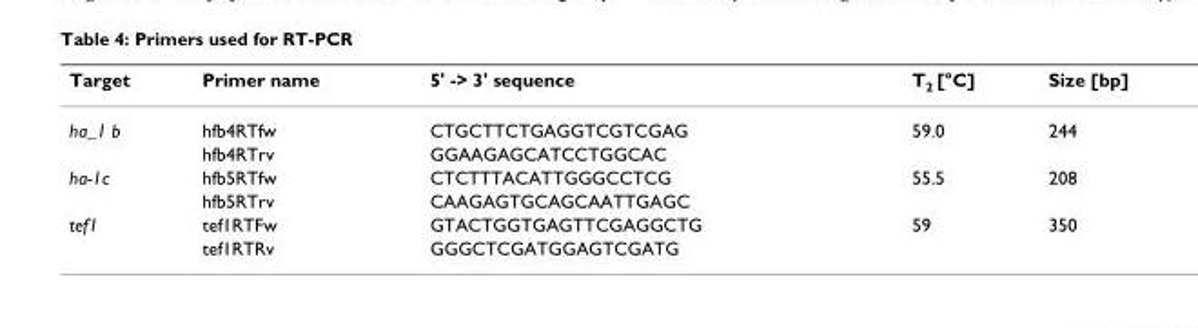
<table><thead><tr><td>Target</td><td>Primer name</td><td>5&#x27; -&gt; 3&#x27; sequence</td><td>T<sub>2</sub> [°C]</td><td>Size [bp]</td></tr></thead><tbody><tr><td rowspan="2">ha_1 b</td><td>hfb4RTfw</td><td>CTGCTTCTGAGGTCGTCGAG</td><td>59.0</td><td>244</td></tr><tr><td>hfb4RTrv</td><td>GGAAGAGCATCCTGGCAC</td><td></td><td></td></tr><tr><td rowspan="2">ha-1c</td><td>hfb5RTfw</td><td>CTCTTTACATTGGGCCTCG</td><td>55.5</td><td>208</td></tr><tr><td>hfb5RTrv</td><td>CAAGAGTGCAGCAATTGAGC</td><td></td><td></td></tr><tr><td rowspan="2">tef1</td><td>tef1RTFw</td><td>GTACTGGTGAGTTCGAGGCTG</td><td>59</td><td>350</td></tr><tr><td>tef1RTRv</td><td>GGGCTCGATGGAGTCGATG</td><td></td><td></td></tr></tbody></table>